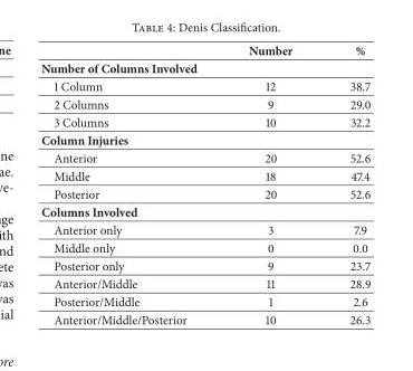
<table><thead><tr><td></td><td>Number</td><td>%</td></tr></thead><tbody><tr><td colspan="3">Number of Columns Involved</td></tr><tr><td>1 Column</td><td>12</td><td>38.7</td></tr><tr><td>2 Columns</td><td>9</td><td>29.0</td></tr><tr><td>3 Columns</td><td>10</td><td>32.2</td></tr><tr><td colspan="3">Column Injuries</td></tr><tr><td>Anterior</td><td>20</td><td>52.6</td></tr><tr><td>Middle</td><td>18</td><td>47.4</td></tr><tr><td>Posterior</td><td>20</td><td>52.6</td></tr><tr><td colspan="3">Columns Involved</td></tr><tr><td>Anterior only</td><td>3</td><td>7.9</td></tr><tr><td>Middle only</td><td>0</td><td>0.0</td></tr><tr><td>Posterior only</td><td>9</td><td>23.7</td></tr><tr><td>Anterior/Middle</td><td>11</td><td>28.9</td></tr><tr><td>Posterior/Middle</td><td>1</td><td>2.6</td></tr><tr><td>Anterior/Middle/Posterior</td><td>10</td><td>26.3</td></tr></tbody></table>